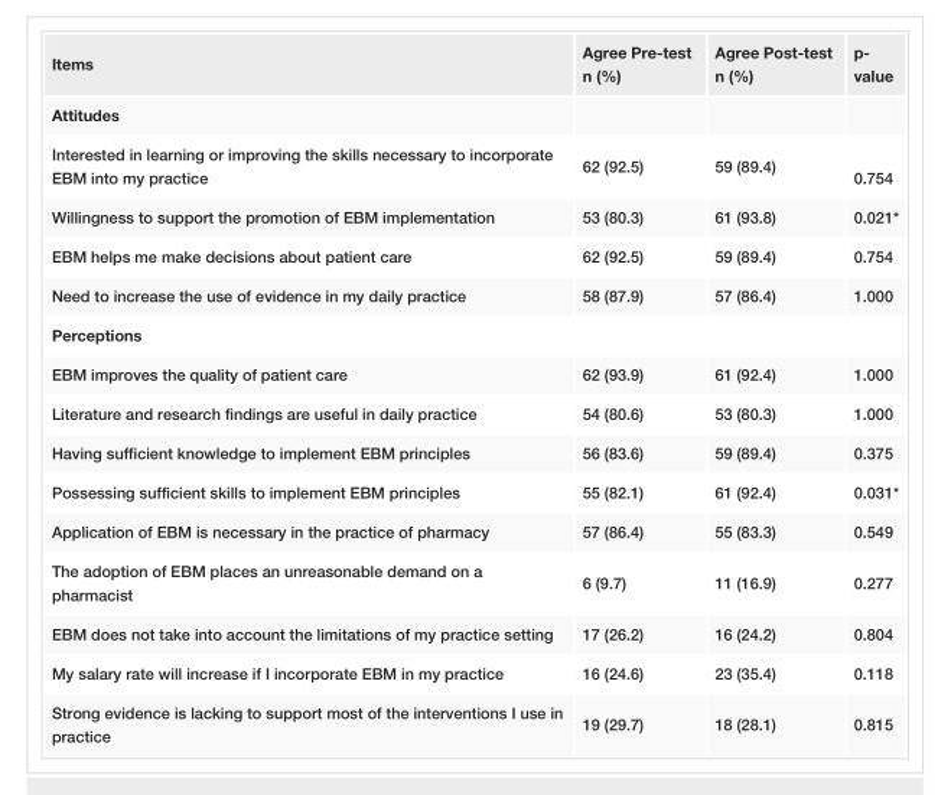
<table><tbody><tr><td>Items</td><td>Agree Pre-test n (%)</td><td>Agree Post-test n (%)</td><td>p- value</td></tr><tr><td colspan="4">Attitudes</td></tr><tr><td>Interested in learning or improving the skills necessary to incorporate EBM into my practice</td><td>62 (92.5)</td><td>59 (89.4)</td><td>0.754</td></tr><tr><td>Willingness to support the promotion of EBM implementation</td><td>53 (80.3)</td><td>61 (93.8)</td><td>0.021*</td></tr><tr><td>EBM helps me make decisions about patient care</td><td>62 (92.5)</td><td>59 (89.4)</td><td>0.754</td></tr><tr><td>Need to increase the use of evidence in my daily practice</td><td>58 (87.9)</td><td>57 (86.4)</td><td>1.000</td></tr><tr><td colspan="4">Perceptions</td></tr><tr><td>EBM improves the quality of patient care</td><td>62 (93.9)</td><td>61 (92.4)</td><td>1.000</td></tr><tr><td>Literature and research findings are useful in daily practice</td><td>54 (80.6)</td><td>53 (80.3)</td><td>1.000</td></tr><tr><td>Having sufficient knowledge to implement EBM principles</td><td>56 (83.6)</td><td>59 (89.4)</td><td>0.375</td></tr><tr><td>Possessing sufficient skills to implement EBM principles</td><td>55 (82.1)</td><td>61 (92.4)</td><td>0.031*</td></tr><tr><td>Application of EBM is necessary in the practice of pharmacy</td><td>57 (86.4)</td><td>55 (83.3)</td><td>0.549</td></tr><tr><td>The adoption of EBM places an unreasonable demand on a pharmacist</td><td>6 (9.7)</td><td>11 (16.9)</td><td>0.277</td></tr><tr><td>EBM does not take into account the limitations of my practice setting</td><td>17 (26.2)</td><td>16 (24.2)</td><td>0.804</td></tr><tr><td>My salary rate will increase if I incorporate EBM in my practice</td><td>16 (24.6)</td><td>23 (35.4)</td><td>0.118</td></tr><tr><td>Strong evidence is lacking to support most of the interventions I use in practice</td><td>19 (29.7)</td><td>18 (28.1)</td><td>0.815</td></tr></tbody></table>